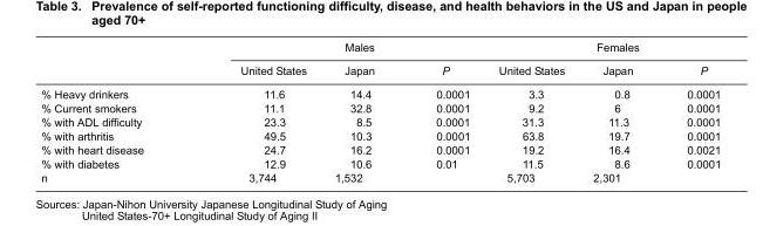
<table><thead><tr><td rowspan="2"></td><td colspan="3">Males</td><td colspan="3">Females</td></tr><tr><td>United States</td><td>Japan</td><td>P</td><td>United States</td><td>Japan</td><td>P</td></tr></thead><tbody><tr><td>% Heavy drinkers</td><td>11.6</td><td>14.4</td><td>0.0001</td><td>3.3</td><td>0.8</td><td>0.0001</td></tr><tr><td>% Current smokers</td><td>11.1</td><td>32.8</td><td>0.0001</td><td>9.2</td><td>6</td><td>0.0001</td></tr><tr><td>% with ADL difficulty</td><td>23.3</td><td>8.5</td><td>0.0001</td><td>31.3</td><td>11.3</td><td>0.0001</td></tr><tr><td>% with arthritis</td><td>49.5</td><td>10.3</td><td>0.0001</td><td>63.8</td><td>19.7</td><td>0.0001</td></tr><tr><td>% with heart disease</td><td>24.7</td><td>16.2</td><td>0.0001</td><td>19.2</td><td>16.4</td><td>0.0021</td></tr><tr><td>% with diabetes</td><td>12.9</td><td>10.6</td><td>0.01</td><td>11.5</td><td>8.6</td><td>0.0001</td></tr><tr><td>n</td><td>3,744</td><td>1,532</td><td></td><td>5,703</td><td>2,301</td><td></td></tr></tbody></table>